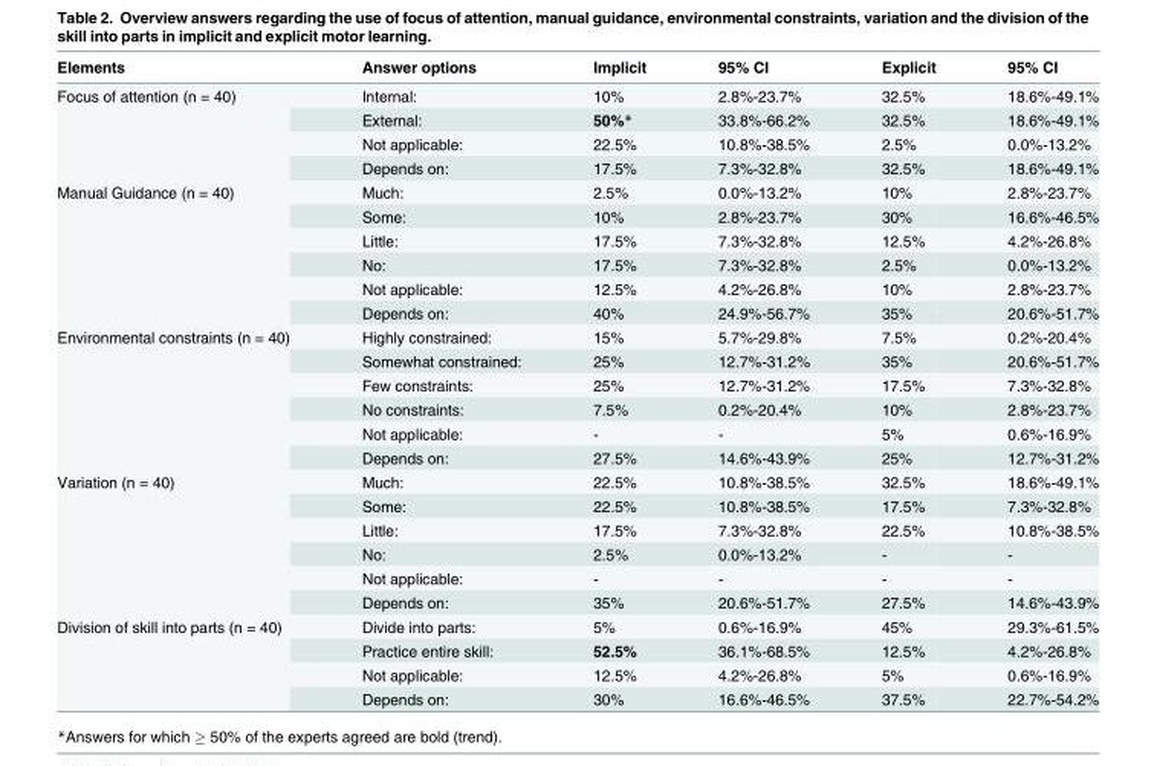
<table><thead><tr><td>Elements</td><td>Answer options</td><td>Implicit</td><td>95% CI</td><td>Explicit</td><td>95% CI</td></tr></thead><tbody><tr><td rowspan="4">Focus of attention (n = 40)</td><td>Internal:</td><td>10%</td><td>2.8%-23.7%</td><td>32.5%</td><td>18.6%-49.1%</td></tr><tr><td>External:</td><td>50%*</td><td>33.8%-66.2%</td><td>32.5%</td><td>18.6%-49.1%</td></tr><tr><td>Not applicable:</td><td>22.5%</td><td>10.8%-38.5%</td><td>2.5%</td><td>0.0%-13.2%</td></tr><tr><td>Depends on:</td><td>17.5%</td><td>7.3%-32.8%</td><td>32.5%</td><td>18.6%-49.1%</td></tr><tr><td rowspan="6">Manual Guidance (n = 40)</td><td>Much:</td><td>2.5%</td><td>0.0%-13.2%</td><td>10%</td><td>2.8%-23.7%</td></tr><tr><td>Some:</td><td>10%</td><td>2.8%-23.7%</td><td>30%</td><td>16.6%-46.5%</td></tr><tr><td>Little:</td><td>17.5%</td><td>7.3%-32.8%</td><td>12.5%</td><td>4.2%-26.8%</td></tr><tr><td>No:</td><td>17.5%</td><td>7.3%-32.8%</td><td>2.5%</td><td>0.0%-13.2%</td></tr><tr><td>Not applicable:</td><td>12.5%</td><td>4.2%-26.8%</td><td>10%</td><td>2.8%-23.7%</td></tr><tr><td>Depends on:</td><td>40%</td><td>24.9%-56.7%</td><td>35%</td><td>20.6%-51.7%</td></tr><tr><td rowspan="6">Environmental constraints (n = 40)</td><td>Highly constrained:</td><td>15%</td><td>5.7%-29.8%</td><td>7.5%</td><td>0.2%-20.4%</td></tr><tr><td>Somewhat constrained:</td><td>25%</td><td>12.7%-31.2%</td><td>35%</td><td>20.6%-51.7%</td></tr><tr><td>Few constraints:</td><td>25%</td><td>12.7%-31.2%</td><td>17.5%</td><td>7.3%-32.8%</td></tr><tr><td>No constraints:</td><td>7.5%</td><td>0.2%-20.4%</td><td>10%</td><td>2.8%-23.7%</td></tr><tr><td>Not applicable:</td><td>-</td><td>-</td><td>5%</td><td>0.6%-16.9%</td></tr><tr><td>Depends on:</td><td>27.5%</td><td>14.6%-43.9%</td><td>25%</td><td>12.7%-31.2%</td></tr><tr><td rowspan="6">Variation (n = 40)</td><td>Much:</td><td>22.5%</td><td>10.8%-38.5%</td><td>32.5%</td><td>18.6%-49.1%</td></tr><tr><td>Some:</td><td>22.5%</td><td>10.8%-38.5%</td><td>17.5%</td><td>7.3%-32.8%</td></tr><tr><td>Little:</td><td>17.5%</td><td>7.3%-32.8%</td><td>22.5%</td><td>10.8%-38.5%</td></tr><tr><td>No:</td><td>2.5%</td><td>0.0%-13.2%</td><td>-</td><td>-</td></tr><tr><td>Not applicable:</td><td>-</td><td>-</td><td>-</td><td>-</td></tr><tr><td>Depends on:</td><td>35%</td><td>20.6%-51.7%</td><td>27.5%</td><td>14.6%-43.9%</td></tr><tr><td rowspan="4">Division of skill into parts (n = 40)</td><td>Divide into parts:</td><td>5%</td><td>0.6%-16.9%</td><td>45%</td><td>29.3%-61.5%</td></tr><tr><td>Practice entire skill:</td><td>52.5%</td><td>36.1%-68.5%</td><td>12.5%</td><td>4.2%-26.8%</td></tr><tr><td>Not applicable:</td><td>12.5%</td><td>4.2%-26.8%</td><td>5%</td><td>0.6%-16.9%</td></tr><tr><td>Depends on:</td><td>30%</td><td>16.6%-46.5%</td><td>37.5%</td><td>22.7%-54.2%</td></tr></tbody></table>